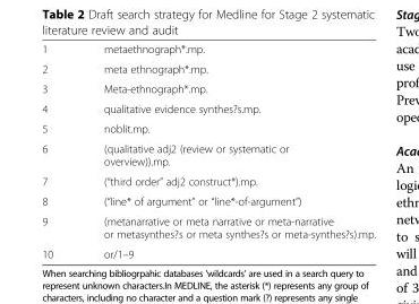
<table><tbody><tr><td>1</td><td>metaethnograph*.mp.</td></tr><tr><td>2</td><td>meta ethnograph*.mp.</td></tr><tr><td>3</td><td>Meta-ethnograph*.mp.</td></tr><tr><td>4</td><td>qualitative evidence synthes?s.mp.</td></tr><tr><td>5</td><td>noblit.mp.</td></tr><tr><td>6</td><td>(qualitative adj2 (review or systematic or overview)).mp.</td></tr><tr><td>7</td><td>(“third order” adj2 construct*).mp.</td></tr><tr><td>8</td><td>(“line* of argument” or “line*-of-argument”)</td></tr><tr><td>9</td><td>(metanarrative or meta narrative or meta-narrative or metasynthes?s or meta synthes?s or meta-synthes?s).mp.</td></tr><tr><td>10</td><td>or/1–9</td></tr></tbody></table>